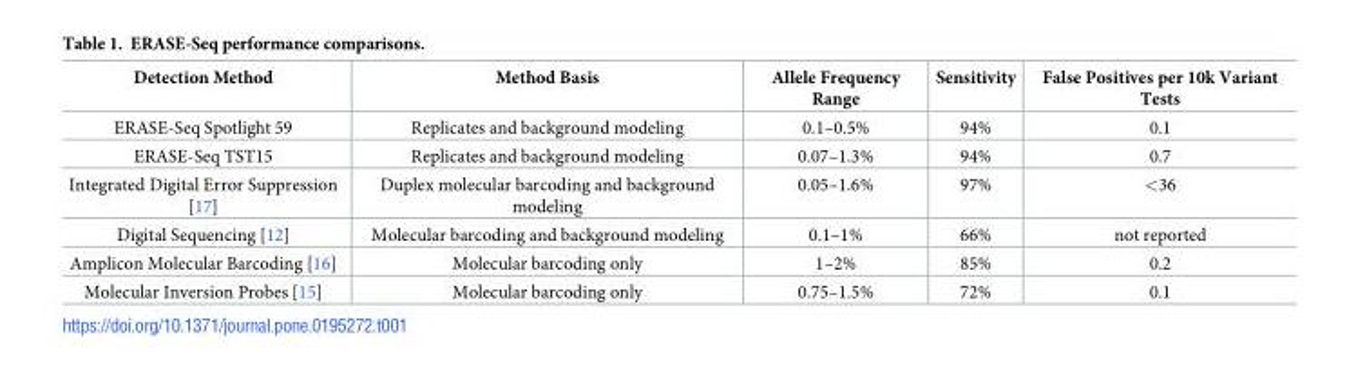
<table><thead><tr><td>Detection Method</td><td>Method Basis</td><td>Allele Frequency Range</td><td>Sensitivity</td><td>False Positives per 10k Variant Tests</td></tr></thead><tbody><tr><td>ERASE-Seq Spotlight 59</td><td>Replicates and background modeling</td><td>0.1–0.5%</td><td>94%</td><td>0.1</td></tr><tr><td>ERASE-Seq TST15</td><td>Replicates and background modeling</td><td>0.07–1.3%</td><td>94%</td><td>0.7</td></tr><tr><td>Integrated Digital Error Suppression [17]</td><td>Duplex molecular barcoding and background modeling</td><td>0.05–1.6%</td><td>97%</td><td>&lt;36</td></tr><tr><td>Digital Sequencing [12]</td><td>Molecular barcoding and background modeling</td><td>0.1–1%</td><td>66%</td><td>not reported</td></tr><tr><td>Amplicon Molecular Barcoding [16]</td><td>Molecular barcoding only</td><td>1–2%</td><td>85%</td><td>0.2</td></tr><tr><td>Molecular Inversion Probes [15]</td><td>Molecular barcoding only</td><td>0.75–1.5%</td><td>72%</td><td>0.1</td></tr></tbody></table>